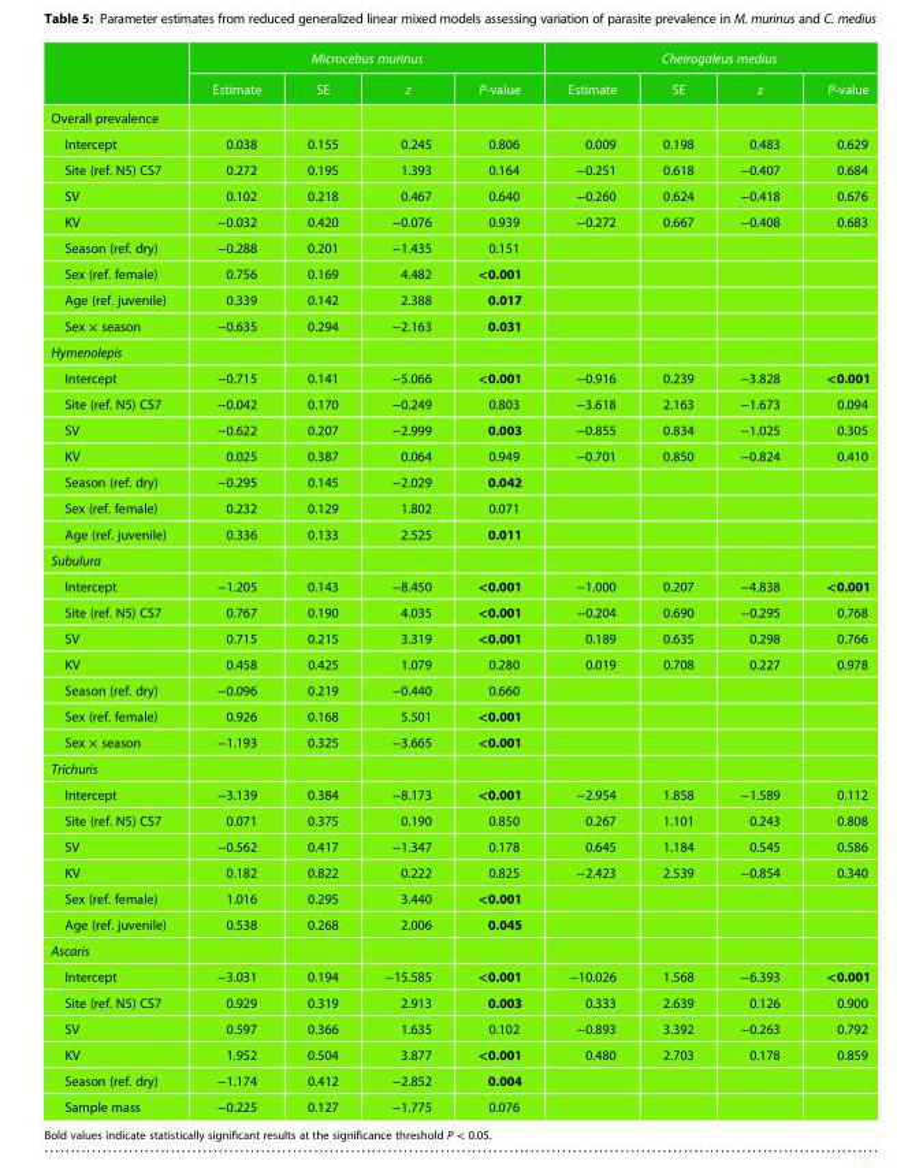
<table><thead><tr><td rowspan="2"></td><td colspan="4">Microcebus murinus</td><td colspan="4">Cheirogaleus medius</td></tr><tr><td>Estimate</td><td>SE</td><td>z</td><td>P-value</td><td>Estimate</td><td>SE</td><td>z</td><td>P-value</td></tr></thead><tbody><tr><td colspan="9">Overall prevalence</td></tr><tr><td>Intercept</td><td>0.038</td><td>0.155</td><td>0.245</td><td>0.806</td><td>0.009</td><td>0.198</td><td>0.483</td><td>0.629</td></tr><tr><td>Site (ref. N5) CS7</td><td>0.272</td><td>0.195</td><td>1.393</td><td>0.164</td><td>−0.251</td><td>0.618</td><td>−0.407</td><td>0.684</td></tr><tr><td>SV</td><td>0.102</td><td>0.218</td><td>0.467</td><td>0.640</td><td>−0.260</td><td>0.624</td><td>−0.418</td><td>0.676</td></tr><tr><td>KV</td><td>−0.032</td><td>0.420</td><td>−0.076</td><td>0.939</td><td>−0.272</td><td>0.667</td><td>−0.408</td><td>0.683</td></tr><tr><td>Season (ref. dry)</td><td>−0.288</td><td>0.201</td><td>−1.435</td><td>0.151</td><td></td><td></td><td></td><td></td></tr><tr><td>Sex (ref. female)</td><td>0.756</td><td>0.169</td><td>4.482</td><td>&lt;0.001</td><td></td><td></td><td></td><td></td></tr><tr><td>Age (ref. juvenile)</td><td>0.339</td><td>0.142</td><td>2.388</td><td>0.017</td><td></td><td></td><td></td><td></td></tr><tr><td>Sex × season</td><td>−0.635</td><td>0.294</td><td>−2.163</td><td>0.031</td><td></td><td></td><td></td><td></td></tr><tr><td colspan="9">Hymenolepis</td></tr><tr><td>Intercept</td><td>−0.715</td><td>0.141</td><td>−5.066</td><td>&lt;0.001</td><td>−0.916</td><td>0.239</td><td>−3.828</td><td>&lt;0.001</td></tr><tr><td>Site (ref. N5) CS7</td><td>−0.042</td><td>0.170</td><td>−0.249</td><td>0.803</td><td>−3.618</td><td>2.163</td><td>−1.673</td><td>0.094</td></tr><tr><td>SV</td><td>−0.622</td><td>0.207</td><td>−2.999</td><td>0.003</td><td>−0.855</td><td>0.834</td><td>−1.025</td><td>0.305</td></tr><tr><td>KV</td><td>0.025</td><td>0.387</td><td>0.064</td><td>0.949</td><td>−0.701</td><td>0.850</td><td>−0.824</td><td>0.410</td></tr><tr><td>Season (ref. dry)</td><td>−0.295</td><td>0.145</td><td>−2.029</td><td>0.042</td><td></td><td></td><td></td><td></td></tr><tr><td>Sex (ref. female)</td><td>0.232</td><td>0.129</td><td>1.802</td><td>0.071</td><td></td><td></td><td></td><td></td></tr><tr><td>Age (ref. juvenile)</td><td>0.336</td><td>0.133</td><td>2.525</td><td>0.011</td><td></td><td></td><td></td><td></td></tr><tr><td colspan="9">Subulura</td></tr><tr><td>Intercept</td><td>−1.205</td><td>0.143</td><td>−8.450</td><td>&lt;0.001</td><td>−1.000</td><td>0.207</td><td>−4.838</td><td>&lt;0.001</td></tr><tr><td>Site (ref. N5) CS7</td><td>0.767</td><td>0.190</td><td>4.035</td><td>&lt;0.001</td><td>−0.204</td><td>0.690</td><td>−0.295</td><td>0.768</td></tr><tr><td>SV</td><td>0.715</td><td>0.215</td><td>3.319</td><td>&lt;0.001</td><td>0.189</td><td>0.635</td><td>0.298</td><td>0.766</td></tr><tr><td>KV</td><td>0.458</td><td>0.425</td><td>1.079</td><td>0.280</td><td>0.019</td><td>0.708</td><td>0.227</td><td>0.978</td></tr><tr><td>Season (ref. dry)</td><td>−0.096</td><td>0.219</td><td>−0.440</td><td>0.660</td><td></td><td></td><td></td><td></td></tr><tr><td>Sex (ref. female)</td><td>0.926</td><td>0.168</td><td>5.501</td><td>&lt;0.001</td><td></td><td></td><td></td><td></td></tr><tr><td>Sex × season</td><td>−1.193</td><td>0.325</td><td>−3.665</td><td>&lt;0.001</td><td></td><td></td><td></td><td></td></tr><tr><td colspan="9">Trichuris</td></tr><tr><td>Intercept</td><td>−3.139</td><td>0.384</td><td>−8.173</td><td>&lt;0.001</td><td>−2.954</td><td>1.858</td><td>−1.589</td><td>0.112</td></tr><tr><td>Site (ref. N5) CS7</td><td>0.071</td><td>0.375</td><td>0.190</td><td>0.850</td><td>0.267</td><td>1.101</td><td>0.243</td><td>0.808</td></tr><tr><td>SV</td><td>−0.562</td><td>0.417</td><td>−1.347</td><td>0.178</td><td>0.645</td><td>1.184</td><td>0.545</td><td>0.586</td></tr><tr><td>KV</td><td>0.182</td><td>0.822</td><td>0.222</td><td>0.825</td><td>−2.423</td><td>2.539</td><td>−0.854</td><td>0.340</td></tr><tr><td>Sex (ref. female)</td><td>1.016</td><td>0.295</td><td>3.440</td><td>&lt;0.001</td><td></td><td></td><td></td><td></td></tr><tr><td>Age (ref. juvenile)</td><td>0.538</td><td>0.268</td><td>2.006</td><td>0.045</td><td></td><td></td><td></td><td></td></tr><tr><td colspan="9">Ascaris</td></tr><tr><td>Intercept</td><td>−3.031</td><td>0.194</td><td>−15.585</td><td>&lt;0.001</td><td>−10.026</td><td>1.568</td><td>−6.393</td><td>&lt;0.001</td></tr><tr><td>Site (ref. N5) CS7</td><td>0.929</td><td>0.319</td><td>2.913</td><td>0.003</td><td>0.333</td><td>2.639</td><td>0.126</td><td>0.900</td></tr><tr><td>SV</td><td>0.597</td><td>0.366</td><td>1.635</td><td>0.102</td><td>−0.893</td><td>3.392</td><td>−0.263</td><td>0.792</td></tr><tr><td>KV</td><td>1.952</td><td>0.504</td><td>3.877</td><td>&lt;0.001</td><td>0.480</td><td>2.703</td><td>0.178</td><td>0.859</td></tr><tr><td>Season (ref. dry)</td><td>−1.174</td><td>0.412</td><td>−2.852</td><td>0.004</td><td></td><td></td><td></td><td></td></tr><tr><td>Sample mass</td><td>−0.225</td><td>0.127</td><td>−1.775</td><td>0.076</td><td></td><td></td><td></td><td></td></tr></tbody></table>